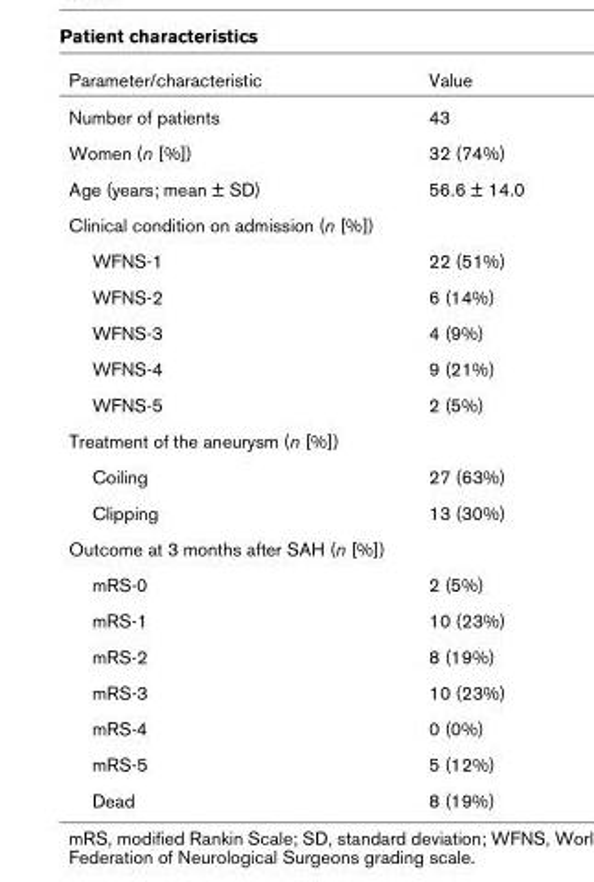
<table><thead><tr><td>Parameter/characteristic</td><td>Value</td></tr></thead><tbody><tr><td>Number of patients</td><td>43</td></tr><tr><td>Women (n [%])</td><td>32 (74%)</td></tr><tr><td>Age (years; mean ± SD)</td><td>56.6 ± 14.0</td></tr><tr><td colspan="2">Clinical condition on admission (n [%])</td></tr><tr><td>WFNS-1</td><td>22 (51%)</td></tr><tr><td>WFNS-2</td><td>6 (14%)</td></tr><tr><td>WFNS-3</td><td>4 (9%)</td></tr><tr><td>WFNS-4</td><td>9 (21%)</td></tr><tr><td>WFNS-5</td><td>2 (5%)</td></tr><tr><td colspan="2">Treatment of the aneurysm (n [%])</td></tr><tr><td>Coiling</td><td>27 (63%)</td></tr><tr><td>Clipping</td><td>13 (30%)</td></tr><tr><td colspan="2">Outcome at 3 months after SAH (n [%])</td></tr><tr><td>mRS-0</td><td>2 (5%)</td></tr><tr><td>mRS-1</td><td>10 (23%)</td></tr><tr><td>mRS-2</td><td>8 (19%)</td></tr><tr><td>mRS-3</td><td>10 (23%)</td></tr><tr><td>mRS-4</td><td>0 (0%)</td></tr><tr><td>mRS-5</td><td>5 (12%)</td></tr><tr><td>Dead</td><td>8 (19%)</td></tr></tbody></table>